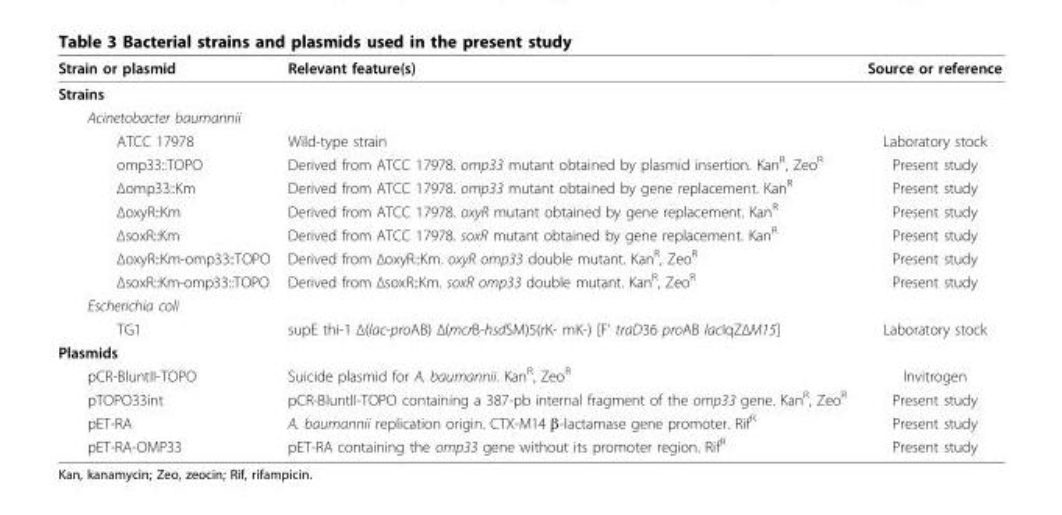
<table><thead><tr><td>Strain or plasmid</td><td>Relevant feature(s)</td><td>Source or reference</td></tr></thead><tbody><tr><td colspan="3">Strains</td></tr><tr><td colspan="3">Acinetobacter baumannii</td></tr><tr><td>ATCC 17978</td><td>Wild-type strain</td><td>Laboratory stock</td></tr><tr><td>omp33::TOPO</td><td>Derived from ATCC 17978. omp33 mutant obtained by plasmid insertion. Kan<sup>R</sup>, Zeo<sup>R</sup></td><td>Present study</td></tr><tr><td>Δomp33::Km</td><td>Derived from ATCC 17978. omp33 mutant obtained by gene replacement. Kan<sup>R</sup></td><td>Present study</td></tr><tr><td>ΔoxyR::Km</td><td>Derived from ATCC 17978. oxyR mutant obtained by gene replacement. Kan<sup>R</sup></td><td>Present study</td></tr><tr><td>ΔsoxR::Km</td><td>Derived from ATCC 17978. soxR mutant obtained by gene replacement. Kan<sup>R</sup></td><td>Present study</td></tr><tr><td>ΔoxyR::Km-omp33::TOPO</td><td>Derived from ΔoxyR::Km. oxyR omp33 double mutant. Kan<sup>R</sup>, Zeo<sup>R</sup></td><td>Present study</td></tr><tr><td>ΔsoxR::Km-omp33::TOPO</td><td>Derived from ΔsoxR::Km. soxR omp33 double mutant. Kan<sup>R</sup>, Zeo<sup>R</sup></td><td>Present study</td></tr><tr><td colspan="3">Escherichia coli</td></tr><tr><td>TG1</td><td>supE thi-1 Δ(lac-proAB) Δ(mcrB-hsdSM)5(rK- mK-) [F’ traD36 proAB lacIqZΔM15]</td><td>Laboratory stock</td></tr><tr><td colspan="3">Plasmids</td></tr><tr><td>pCR-BluntII-TOPO</td><td>Suicide plasmid for A. baumannii. Kan<sup>R</sup>, Zeo<sup>R</sup></td><td>Invitrogen</td></tr><tr><td>pTOPO33int</td><td>pCR-BluntII-TOPO containing a 387-pb internal fragment of the omp33 gene. Kan<sup>R</sup>, Zeo<sup>R</sup></td><td>Present study</td></tr><tr><td>pET-RA</td><td>A. baumannii replication origin. CTX-M14 β-lactamase gene promoter. Rif<sup>R</sup></td><td>Present study</td></tr><tr><td>pET-RA-OMP33</td><td>pET-RA containing the omp33 gene without its promoter region. Rif<sup>R</sup></td><td>Present study</td></tr></tbody></table>